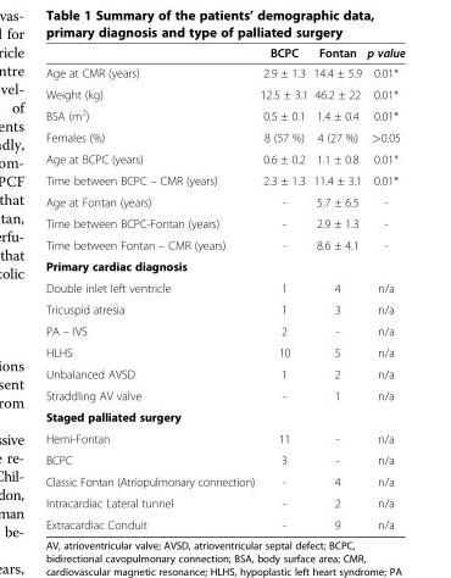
<table><thead><tr><td></td><td>BCPC</td><td>Fontan</td><td>p value</td></tr></thead><tbody><tr><td>Age at CMR (years)</td><td>2.9 ± 1.3</td><td>14.4 ± 5.9</td><td>0.01*</td></tr><tr><td>Weight (kg)</td><td>12.5 ± 3.1</td><td>46.2 ± 22</td><td>0.01*</td></tr><tr><td>BSA (m<sup>2</sup>)</td><td>0.5 ± 0.1</td><td>1.4 ± 0.4</td><td>0.01*</td></tr><tr><td>Females (%)</td><td>8 (57 %)</td><td>4 (27 %)</td><td>&gt;0.05</td></tr><tr><td>Age at BCPC (years)</td><td>0.6 ± 0.2</td><td>1.1 ± 0.8</td><td>0.01*</td></tr><tr><td>Time between BCPC – CMR (years)</td><td>2.3 ± 1.3</td><td>11.4 ± 3.1</td><td>0.01*</td></tr><tr><td>Age at Fontan (years)</td><td>-</td><td>5.7 ± 6.5</td><td>-</td></tr><tr><td>Time between BCPC-Fontan (years)</td><td>-</td><td>2.9 ± 1.3</td><td>-</td></tr><tr><td>Time between Fontan – CMR (years)</td><td>-</td><td>8.6 ± 4.1</td><td>-</td></tr><tr><td colspan="4">Primary cardiac diagnosis</td></tr><tr><td>Double inlet left ventricle</td><td>1</td><td>4</td><td>n/a</td></tr><tr><td>Tricuspid atresia</td><td>1</td><td>3</td><td>n/a</td></tr><tr><td>PA – IVS</td><td>2</td><td>-</td><td>n/a</td></tr><tr><td>HLHS</td><td>10</td><td>5</td><td>n/a</td></tr><tr><td>Unbalanced AVSD</td><td>1</td><td>2</td><td>n/a</td></tr><tr><td>Straddling AV valve</td><td>-</td><td>1</td><td>n/a</td></tr><tr><td colspan="4">Staged palliated surgery</td></tr><tr><td>Hemi-Fontan</td><td>11</td><td>-</td><td>n/a</td></tr><tr><td>BCPC</td><td>3</td><td>-</td><td>n/a</td></tr><tr><td>Classic Fontan (Atriopulmonary connection)</td><td>-</td><td>4</td><td>n/a</td></tr><tr><td>Intracardiac Lateral tunnel</td><td>-</td><td>2</td><td>n/a</td></tr><tr><td>Extracardiac Conduit</td><td>-</td><td>9</td><td>n/a</td></tr></tbody></table>